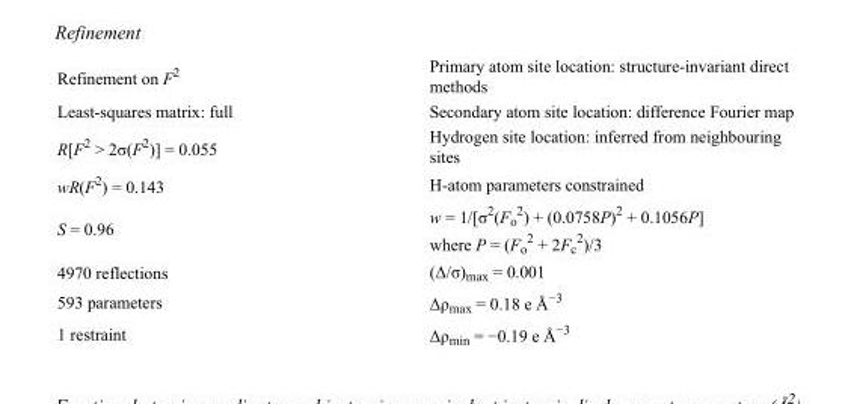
<table><tbody><tr><td>Refinement on F<sup>2</sup></td><td>Primary atom site location: structure-invariant direct methods</td></tr><tr><td>Least-squares matrix: full</td><td>Secondary atom site location: difference Fourier map</td></tr><tr><td>R[F<sup>2</sup> &gt; 2σ(F<sup>2</sup>)] = 0.055</td><td>Hydrogen site location: inferred from neighbouring sites</td></tr><tr><td>wR(F<sup>2</sup>) = 0.143</td><td>H-atom parameters constrained</td></tr><tr><td>S = 0.96</td><td>w = 1/[σ<sup>2</sup>(F<sub>o</sub> <sup>2</sup>) + (0.0758P)<sup>2</sup> + 0.1056P] where P = (F<sub>o</sub> <sup>2</sup> + 2F<sub>c</sub> <sup>2</sup>)/3</td></tr><tr><td>4970 reflections</td><td>(Δ/σ)<sub>max</sub> = 0.001</td></tr><tr><td>593 parameters</td><td>Δρ<sub>max</sub> = 0.18 e Å<sup>−3</sup></td></tr><tr><td>1 restraint</td><td>Δρ<sub>min</sub> = −0.19 e Å<sup>−3</sup></td></tr></tbody></table>